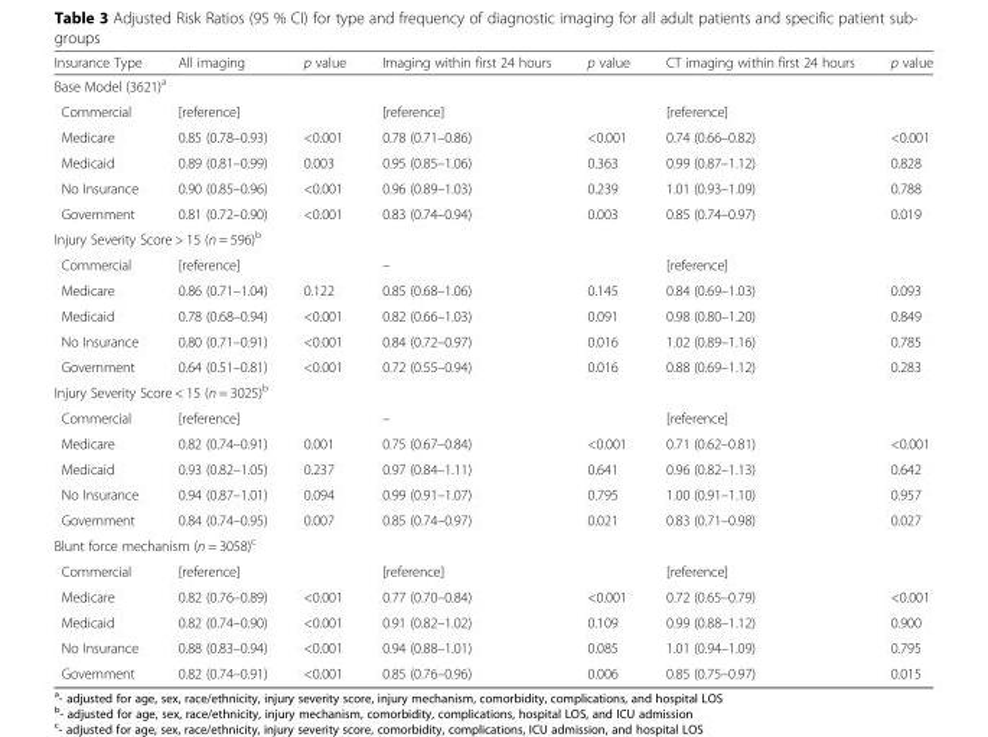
<table><thead><tr><td>Insurance Type</td><td>All imaging</td><td>p value</td><td>Imaging within first 24 hours</td><td>p value</td><td>CT imaging within first 24 hours</td><td>p value</td></tr></thead><tbody><tr><td colspan="7">Base Model (3621)<sup>a</sup></td></tr><tr><td>Commercial</td><td>[reference]</td><td></td><td>[reference]</td><td></td><td>[reference]</td><td></td></tr><tr><td>Medicare</td><td>0.85 (0.78–0.93)</td><td>&lt;0.001</td><td>0.78 (0.71–0.86)</td><td>&lt;0.001</td><td>0.74 (0.66–0.82)</td><td>&lt;0.001</td></tr><tr><td>Medicaid</td><td>0.89 (0.81–0.99)</td><td>0.003</td><td>0.95 (0.85–1.06)</td><td>0.363</td><td>0.99 (0.87–1.12)</td><td>0.828</td></tr><tr><td>No Insurance</td><td>0.90 (0.85–0.96)</td><td>&lt;0.001</td><td>0.96 (0.89–1.03)</td><td>0.239</td><td>1.01 (0.93–1.09)</td><td>0.788</td></tr><tr><td>Government</td><td>0.81 (0.72–0.90)</td><td>&lt;0.001</td><td>0.83 (0.74–0.94)</td><td>0.003</td><td>0.85 (0.74–0.97)</td><td>0.019</td></tr><tr><td colspan="7">Injury Severity Score &gt; 15 (n = 596)<sup>b</sup></td></tr><tr><td>Commercial</td><td>[reference]</td><td></td><td>–</td><td></td><td>[reference]</td><td></td></tr><tr><td>Medicare</td><td>0.86 (0.71–1.04)</td><td>0.122</td><td>0.85 (0.68–1.06)</td><td>0.145</td><td>0.84 (0.69–1.03)</td><td>0.093</td></tr><tr><td>Medicaid</td><td>0.78 (0.68–0.94)</td><td>&lt;0.001</td><td>0.82 (0.66–1.03)</td><td>0.091</td><td>0.98 (0.80–1.20)</td><td>0.849</td></tr><tr><td>No Insurance</td><td>0.80 (0.71–0.91)</td><td>&lt;0.001</td><td>0.84 (0.72–0.97)</td><td>0.016</td><td>1.02 (0.89–1.16)</td><td>0.785</td></tr><tr><td>Government</td><td>0.64 (0.51–0.81)</td><td>&lt;0.001</td><td>0.72 (0.55–0.94)</td><td>0.016</td><td>0.88 (0.69–1.12)</td><td>0.283</td></tr><tr><td colspan="7">Injury Severity Score &lt; 15 (n = 3025)<sup>b</sup></td></tr><tr><td>Commercial</td><td>[reference]</td><td></td><td>–</td><td></td><td>[reference]</td><td></td></tr><tr><td>Medicare</td><td>0.82 (0.74–0.91)</td><td>0.001</td><td>0.75 (0.67–0.84)</td><td>&lt;0.001</td><td>0.71 (0.62–0.81)</td><td>&lt;0.001</td></tr><tr><td>Medicaid</td><td>0.93 (0.82–1.05)</td><td>0.237</td><td>0.97 (0.84–1.11)</td><td>0.641</td><td>0.96 (0.82–1.13)</td><td>0.642</td></tr><tr><td>No Insurance</td><td>0.94 (0.87–1.01)</td><td>0.094</td><td>0.99 (0.91–1.07)</td><td>0.795</td><td>1.00 (0.91–1.10)</td><td>0.957</td></tr><tr><td>Government</td><td>0.84 (0.74–0.95)</td><td>0.007</td><td>0.85 (0.74–0.97)</td><td>0.021</td><td>0.83 (0.71–0.98)</td><td>0.027</td></tr><tr><td colspan="7">Blunt force mechanism (n = 3058)<sup>c</sup></td></tr><tr><td>Commercial</td><td>[reference]</td><td></td><td>[reference]</td><td></td><td>[reference]</td><td></td></tr><tr><td>Medicare</td><td>0.82 (0.76–0.89)</td><td>&lt;0.001</td><td>0.77 (0.70–0.84)</td><td>&lt;0.001</td><td>0.72 (0.65–0.79)</td><td>&lt;0.001</td></tr><tr><td>Medicaid</td><td>0.82 (0.74–0.90)</td><td>&lt;0.001</td><td>0.91 (0.82–1.02)</td><td>0.109</td><td>0.99 (0.88–1.12)</td><td>0.900</td></tr><tr><td>No Insurance</td><td>0.88 (0.83–0.94)</td><td>&lt;0.001</td><td>0.94 (0.88–1.01)</td><td>0.085</td><td>1.01 (0.94–1.09)</td><td>0.795</td></tr><tr><td>Government</td><td>0.82 (0.74–0.91)</td><td>&lt;0.001</td><td>0.85 (0.76–0.96)</td><td>0.006</td><td>0.85 (0.75–0.97)</td><td>0.015</td></tr></tbody></table>